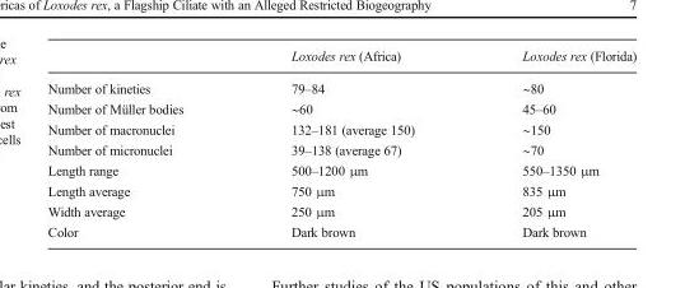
<table><thead><tr><td></td><td>Loxodes rex (Africa)</td><td>Loxodes rex (Florida)</td></tr></thead><tbody><tr><td>Number of kineties</td><td>79–84</td><td>∼80</td></tr><tr><td>Number of Müller bodies</td><td>∼60</td><td>45–60</td></tr><tr><td>Number of macronuclei</td><td>132–181 (average 150)</td><td>∼150</td></tr><tr><td>Number of micronuclei</td><td>39–138 (average 67)</td><td>∼70</td></tr><tr><td>Length range</td><td>500–1200 μm</td><td>550–1350 μm</td></tr><tr><td>Length average</td><td>750 μm</td><td>835 μm</td></tr><tr><td>Width average</td><td>250 μm</td><td>205 μm</td></tr><tr><td>Color</td><td>Dark brown</td><td>Dark brown</td></tr></tbody></table>